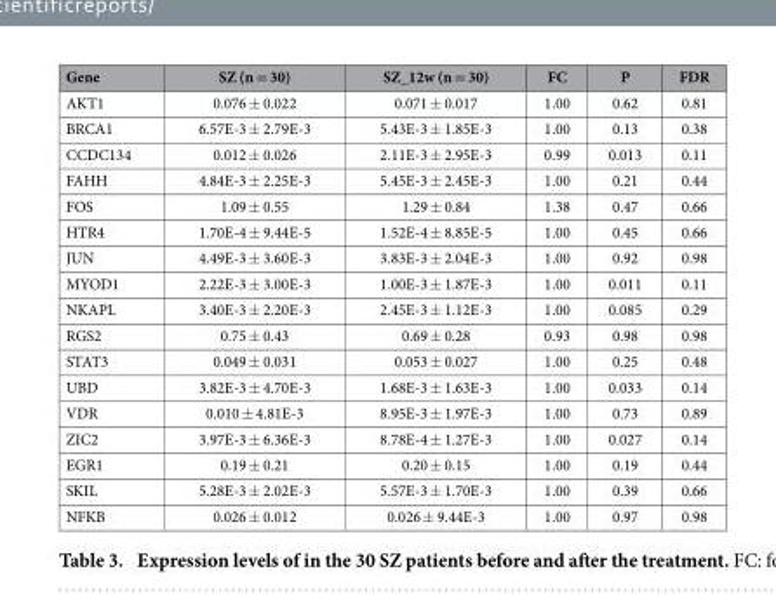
<table><thead><tr><td>Gene</td><td>SZ (n = 30)</td><td>SZ_12w (n = 30)</td><td>FC</td><td>P</td><td>FDR</td></tr></thead><tbody><tr><td>AKT1</td><td>0.076 ± 0.022</td><td>0.071 ± 0.017</td><td>1.00</td><td>0.62</td><td>0.81</td></tr><tr><td>BRCA1</td><td>6.57E-3 ± 2.79E-3</td><td>5.43E-3 ± 1.85E-3</td><td>1.00</td><td>0.13</td><td>0.38</td></tr><tr><td>CCDC134</td><td>0.012 ± 0.026</td><td>2.11E-3 ± 2.95E-3</td><td>0.99</td><td>0.013</td><td>0.11</td></tr><tr><td>FAHH</td><td>4.84E-3 ± 2.25E-3</td><td>5.45E-3 ± 2.45E-3</td><td>1.00</td><td>0.21</td><td>0.44</td></tr><tr><td>FOS</td><td>1.09 ± 0.55</td><td>1.29 ± 0.84</td><td>1.38</td><td>0.47</td><td>0.66</td></tr><tr><td>HTR4</td><td>1.70E-4 ± 9.44E-5</td><td>1.52E-4 ± 8.85E-5</td><td>1.00</td><td>0.45</td><td>0.66</td></tr><tr><td>JUN</td><td>4.49E-3 ± 3.60E-3</td><td>3.83E-3 ± 2.04E-3</td><td>1.00</td><td>0.92</td><td>0.98</td></tr><tr><td>MYOD1</td><td>2.22E-3 ± 3.00E-3</td><td>1.00E-3 ± 1.87E-3</td><td>1.00</td><td>0.011</td><td>0.11</td></tr><tr><td>NKAPL</td><td>3.40E-3 ± 2.20E-3</td><td>2.45E-3 ± 1.12E-3</td><td>1.00</td><td>0.085</td><td>0.29</td></tr><tr><td>RGS2</td><td>0.75 ± 0.43</td><td>0.69 ± 0.28</td><td>0.93</td><td>0.98</td><td>0.98</td></tr><tr><td>STAT3</td><td>0.049 ± 0.031</td><td>0.053 ± 0.027</td><td>1.00</td><td>0.25</td><td>0.48</td></tr><tr><td>UBD</td><td>3.82E-3 ± 4.70E-3</td><td>1.68E-3 ± 1.63E-3</td><td>1.00</td><td>0.033</td><td>0.14</td></tr><tr><td>VDR</td><td>0.010 ± 4.81E-3</td><td>8.95E-3 ± 1.97E-3</td><td>1.00</td><td>0.73</td><td>0.89</td></tr><tr><td>ZIC2</td><td>3.97E-3 ± 6.36E-3</td><td>8.78E-4 ± 1.27E-3</td><td>1.00</td><td>0.027</td><td>0.14</td></tr><tr><td>EGR1</td><td>0.19 ± 0.21</td><td>0.20 ± 0.15</td><td>1.00</td><td>0.19</td><td>0.44</td></tr><tr><td>SKIL</td><td>5.28E-3 ± 2.02E-3</td><td>5.57E-3 ± 1.70E-3</td><td>1.00</td><td>0.39</td><td>0.66</td></tr><tr><td>NFKB</td><td>0.026 ± 0.012</td><td>0.026 ± 9.44E-3</td><td>1.00</td><td>0.97</td><td>0.98</td></tr></tbody></table>